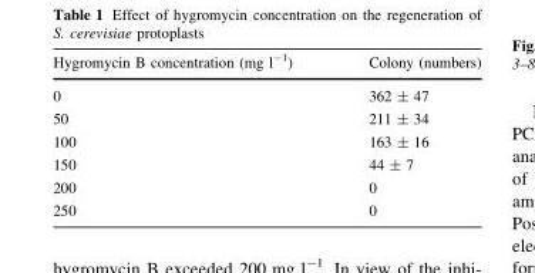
<table><thead><tr><td>Hygromycin B concentration (mg l<sup>-1</sup>)</td><td>Colony (numbers)</td></tr></thead><tbody><tr><td>0</td><td>362 ± 47</td></tr><tr><td>50</td><td>211 ± 34</td></tr><tr><td>100</td><td>163 ± 16</td></tr><tr><td>150</td><td>44 ± 7</td></tr><tr><td>200</td><td>0</td></tr><tr><td>250</td><td>0</td></tr></tbody></table>